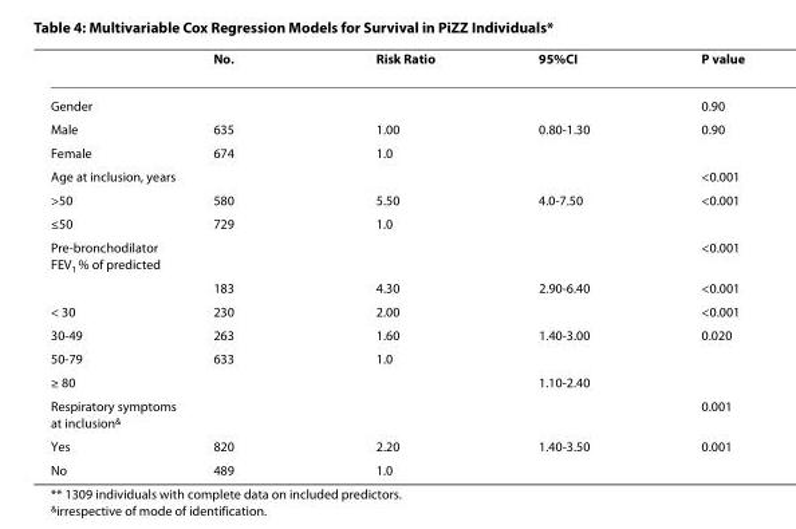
<table><thead><tr><td></td><td>No.</td><td>Risk Ratio</td><td>95%CI</td><td>P value</td></tr></thead><tbody><tr><td>Gender</td><td></td><td></td><td></td><td>0.90</td></tr><tr><td>Male</td><td>635</td><td>1.00</td><td>0.80-1.30</td><td>0.90</td></tr><tr><td>Female</td><td>674</td><td>1.0</td><td></td><td></td></tr><tr><td>Age at inclusion, years</td><td></td><td></td><td></td><td>&lt;0.001</td></tr><tr><td>&gt;50</td><td>580</td><td>5.50</td><td>4.0-7.50</td><td>&lt;0.001</td></tr><tr><td>≤50</td><td>729</td><td>1.0</td><td></td><td></td></tr><tr><td rowspan="2">Pre-bronchodilator FEV<sub>1</sub> % of predicted</td><td></td><td></td><td></td><td>&lt;0.001</td></tr><tr><td>183</td><td>4.30</td><td>2.90-6.40</td><td>&lt;0.001</td></tr><tr><td>&lt; 30</td><td>230</td><td>2.00</td><td></td><td>&lt;0.001</td></tr><tr><td>30-49</td><td>263</td><td>1.60</td><td>1.40-3.00</td><td>0.020</td></tr><tr><td>50-79</td><td>633</td><td>1.0</td><td></td><td></td></tr><tr><td>≥ 80</td><td></td><td></td><td>1.10-2.40</td><td></td></tr><tr><td>Respiratory symptoms at inclusion<sup>&amp;</sup></td><td></td><td></td><td></td><td>0.001</td></tr><tr><td>Yes</td><td>820</td><td>2.20</td><td>1.40-3.50</td><td>0.001</td></tr><tr><td>No</td><td>489</td><td>1.0</td><td></td><td></td></tr></tbody></table>